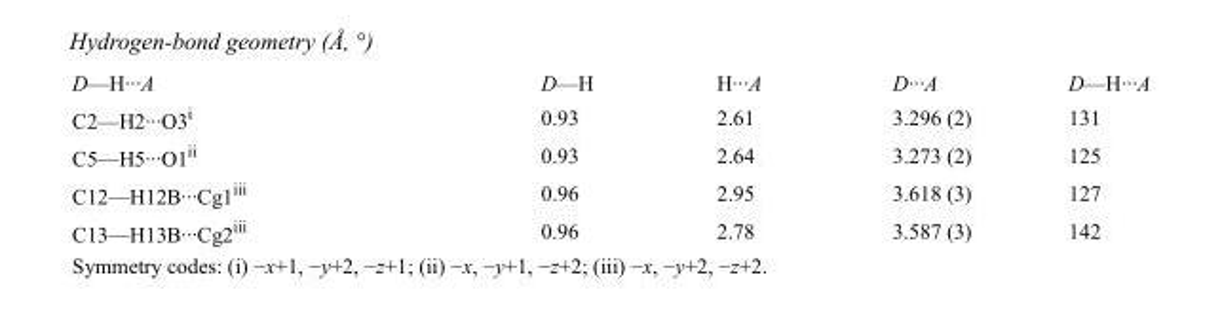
<table><tbody><tr><td>D—H···A</td><td>D—H</td><td>H···A</td><td>D···A</td><td>D—H···A</td></tr><tr><td>C2—H2···O3<sup>i</sup></td><td>0.93</td><td>2.61</td><td>3.296 (2)</td><td>131</td></tr><tr><td>C5—H5···O1<sup>ii</sup></td><td>0.93</td><td>2.64</td><td>3.273 (2)</td><td>125</td></tr><tr><td>C12—H12B···Cg1<sup>iii</sup></td><td>0.96</td><td>2.95</td><td>3.618 (3)</td><td>127</td></tr><tr><td>C13—H13B···Cg2<sup>iii</sup></td><td>0.96</td><td>2.78</td><td>3.587 (3)</td><td>142</td></tr></tbody></table>